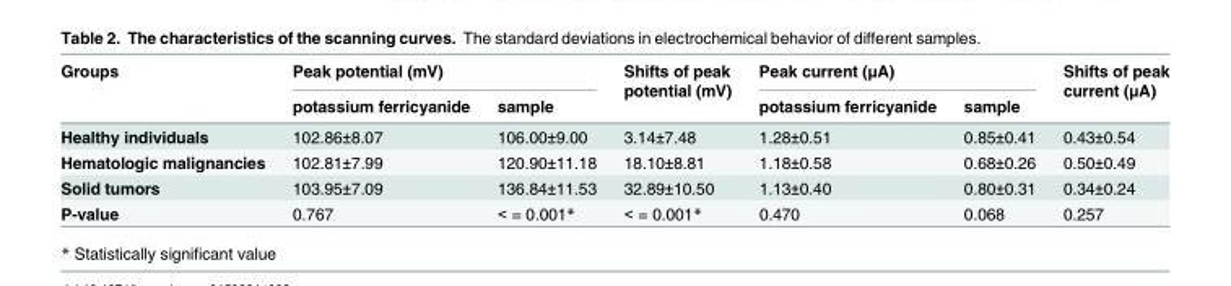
<table><thead><tr><td rowspan="2">Groups</td><td colspan="2">Peak potential (mV)</td><td rowspan="2">Shifts of peak potential (mV)</td><td colspan="2">Peak current (μA)</td><td rowspan="2">Shifts of peak current (μA)</td></tr><tr><td>potassium ferricyanide</td><td>sample</td><td>potassium ferricyanide</td><td>sample</td></tr></thead><tbody><tr><td>Healthy individuals</td><td>102.86±8.07</td><td>106.00±9.00</td><td>3.14±7.48</td><td>1.28±0.51</td><td>0.85±0.41</td><td>0.43±0.54</td></tr><tr><td>Hematologic malignancies</td><td>102.81±7.99</td><td>120.90±11.18</td><td>18.10±8.81</td><td>1.18±0.58</td><td>0.68±0.26</td><td>0.50±0.49</td></tr><tr><td>Solid tumors</td><td>103.95±7.09</td><td>136.84±11.53</td><td>32.89±10.50</td><td>1.13±0.40</td><td>0.80±0.31</td><td>0.34±0.24</td></tr><tr><td>P-value</td><td>0.767</td><td>&lt; = 0.001*</td><td>&lt; = 0.001*</td><td>0.470</td><td>0.068</td><td>0.257</td></tr></tbody></table>